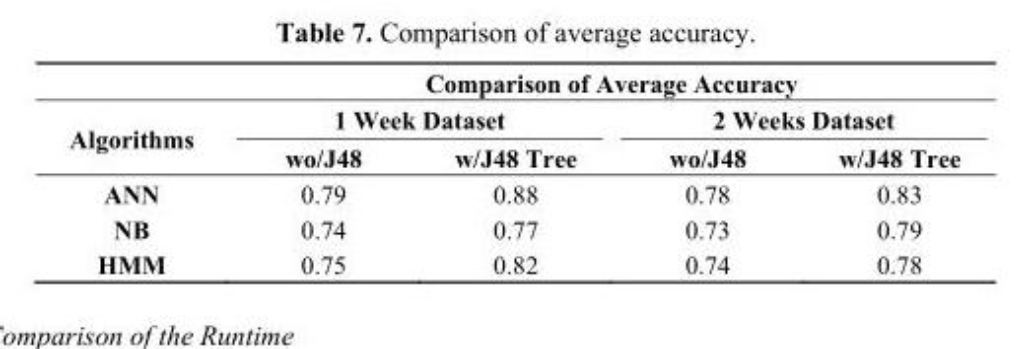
<table><thead><tr><td rowspan="3">Algorithms</td><td colspan="4">Comparison of Average Accuracy</td></tr><tr><td colspan="2">1 Week Dataset</td><td colspan="2">2 Weeks Dataset</td></tr><tr><td>wo/J48</td><td>w/J48 Tree</td><td>wo/J48</td><td>w/J48 Tree</td></tr></thead><tbody><tr><td>ANN</td><td>0.79</td><td>0.88</td><td>0.78</td><td>0.83</td></tr><tr><td>NB</td><td>0.74</td><td>0.77</td><td>0.73</td><td>0.79</td></tr><tr><td>HMM</td><td>0.75</td><td>0.82</td><td>0.74</td><td>0.78</td></tr></tbody></table>